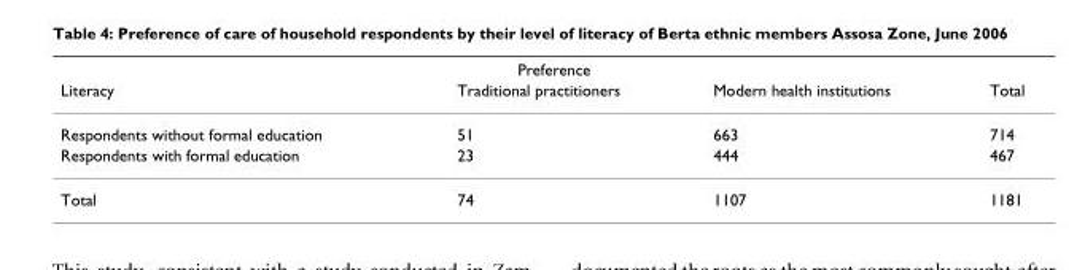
<table><thead><tr><td colspan="4">Preference</td></tr><tr><td>Literacy</td><td>Traditional practitioners</td><td>Modern health institutions</td><td>Total</td></tr></thead><tbody><tr><td>Respondents without formal education</td><td>51</td><td>663</td><td>714</td></tr><tr><td>Respondents with formal education</td><td>23</td><td>444</td><td>467</td></tr><tr><td>Total</td><td>74</td><td>1107</td><td>1181</td></tr></tbody></table>